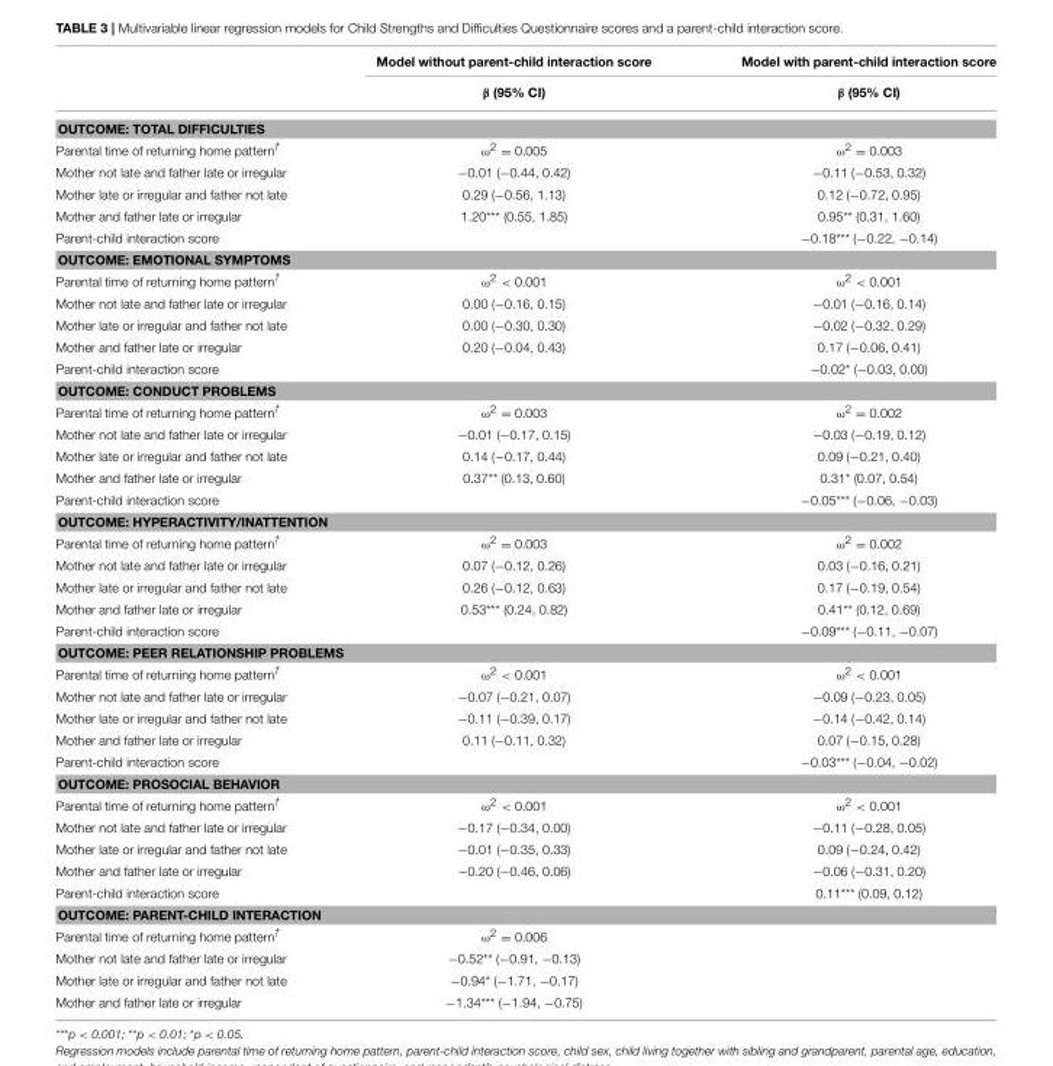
<table><thead><tr><td rowspan="2"></td><td rowspan="2">Model without parent-child interaction score β (95% CI)</td><td rowspan="2">Model with parent-child interaction score β (95% CI)</td></tr><tr></tr></thead><tbody><tr><td colspan="3">OUTCOME: TOTAL DIFFICULTIES</td></tr><tr><td>Parental time of returning home pattern<sup>†</sup></td><td>ω<sup>2</sup> = 0.005</td><td>ω<sup>2</sup> = 0.003</td></tr><tr><td>Mother not late and father late or irregular</td><td>−0.01 (−0.44, 0.42)</td><td>−0.11 (−0.53, 0.32)</td></tr><tr><td>Mother late or irregular and father not late</td><td>0.29 (−0.56, 1.13)</td><td>0.12 (−0.72, 0.95)</td></tr><tr><td>Mother and father late or irregular</td><td>1.20*** (0.55, 1.85)</td><td>0.95** (0.31, 1.60)</td></tr><tr><td>Parent-child interaction score</td><td></td><td>−0.18*** (−0.22, −0.14)</td></tr><tr><td colspan="3">OUTCOME: EMOTIONAL SYMPTOMS</td></tr><tr><td>Parental time of returning home pattern<sup>†</sup></td><td>ω<sup>2</sup> &lt; 0.001</td><td>ω<sup>2</sup> &lt; 0.001</td></tr><tr><td>Mother not late and father late or irregular</td><td>0.00 (−0.16, 0.15)</td><td>−0.01 (−0.16, 0.14)</td></tr><tr><td>Mother late or irregular and father not late</td><td>0.00 (−0.30, 0.30)</td><td>−0.02 (−0.32, 0.29)</td></tr><tr><td>Mother and father late or irregular</td><td>0.20 (−0.04, 0.43)</td><td>0.17 (−0.06, 0.41)</td></tr><tr><td>Parent-child interaction score</td><td></td><td>−0.02* (−0.03, 0.00)</td></tr><tr><td colspan="3">OUTCOME: CONDUCT PROBLEMS</td></tr><tr><td>Parental time of returning home pattern<sup>†</sup></td><td>ω<sup>2</sup> = 0.003</td><td>ω<sup>2</sup> = 0.002</td></tr><tr><td>Mother not late and father late or irregular</td><td>−0.01 (−0.17, 0.15)</td><td>−0.03 (−0.19, 0.12)</td></tr><tr><td>Mother late or irregular and father not late</td><td>0.14 (−0.17, 0.44)</td><td>0.09 (−0.21, 0.40)</td></tr><tr><td>Mother and father late or irregular</td><td>0.37** (0.13, 0.60)</td><td>0.31* (0.07, 0.54)</td></tr><tr><td>Parent-child interaction score</td><td></td><td>−0.05*** (−0.06, −0.03)</td></tr><tr><td colspan="3">OUTCOME: HYPERACTIVITY/INATTENTION</td></tr><tr><td>Parental time of returning home pattern<sup>†</sup></td><td>ω<sup>2</sup> = 0.003</td><td>ω<sup>2</sup> = 0.002</td></tr><tr><td>Mother not late and father late or irregular</td><td>0.07 (−0.12, 0.26)</td><td>0.03 (−0.16, 0.21)</td></tr><tr><td>Mother late or irregular and father not late</td><td>0.26 (−0.12, 0.63)</td><td>0.17 (−0.19, 0.54)</td></tr><tr><td>Mother and father late or irregular</td><td>0.53*** (0.24, 0.82)</td><td>0.41** (0.12, 0.69)</td></tr><tr><td>Parent-child interaction score</td><td></td><td>−0.09*** (−0.11, −0.07)</td></tr><tr><td colspan="3">OUTCOME: PEER RELATIONSHIP PROBLEMS</td></tr><tr><td>Parental time of returning home pattern<sup>†</sup></td><td>ω<sup>2</sup> &lt; 0.001</td><td>ω<sup>2</sup> &lt; 0.001</td></tr><tr><td>Mother not late and father late or irregular</td><td>−0.07 (−0.21, 0.07)</td><td>−0.09 (−0.23, 0.05)</td></tr><tr><td>Mother late or irregular and father not late</td><td>−0.11 (−0.39, 0.17)</td><td>−0.14 (−0.42, 0.14)</td></tr><tr><td>Mother and father late or irregular</td><td>0.11 (−0.11, 0.32)</td><td>0.07 (−0.15, 0.28)</td></tr><tr><td>Parent-child interaction score</td><td></td><td>−0.03*** (−0.04, −0.02)</td></tr><tr><td colspan="3">OUTCOME: PROSOCIAL BEHAVIOR</td></tr><tr><td>Parental time of returning home pattern<sup>†</sup></td><td>ω<sup>2</sup> &lt; 0.001</td><td>ω<sup>2</sup> &lt; 0.001</td></tr><tr><td>Mother not late and father late or irregular</td><td>−0.17 (−0.34, 0.00)</td><td>−0.11 (−0.28, 0.05)</td></tr><tr><td>Mother late or irregular and father not late</td><td>−0.01 (−0.35, 0.33)</td><td>0.09 (−0.24, 0.42)</td></tr><tr><td>Mother and father late or irregular</td><td>−0.20 (−0.46, 0.06)</td><td>−0.06 (−0.31, 0.20)</td></tr><tr><td>Parent-child interaction score</td><td></td><td>0.11*** (0.09, 0.12)</td></tr><tr><td colspan="3">OUTCOME: PARENT-CHILD INTERACTION</td></tr><tr><td>Parental time of returning home pattern<sup>†</sup></td><td>ω<sup>2</sup> = 0.006</td><td></td></tr><tr><td>Mother not late and father late or irregular</td><td>−0.52** (−0.91, −0.13)</td><td></td></tr><tr><td>Mother late or irregular and father not late</td><td>−0.94* (−1.71, −0.17)</td><td></td></tr><tr><td>Mother and father late or irregular</td><td>−1.34*** (−1.94, −0.75)</td><td></td></tr></tbody></table>